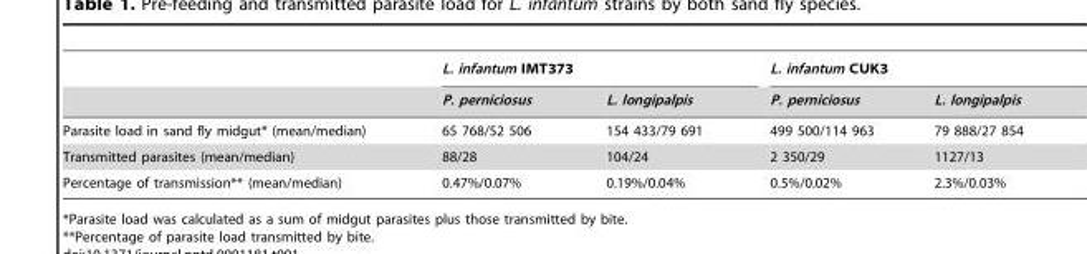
<table><thead><tr><td rowspan="2"></td><td colspan="2">L. infantum IMT373</td><td colspan="2">L. infantum CUK3</td></tr><tr><td>P. perniciosus</td><td>L. longipalpis</td><td>P. perniciosus</td><td>L. longipalpis</td></tr></thead><tbody><tr><td>Parasite load in sand fly midgut* (mean/median)</td><td>65 768/52 506</td><td>154 433/79 691</td><td>499 500/114 963</td><td>79 888/27 854</td></tr><tr><td>Transmitted parasites (mean/median)</td><td>88/28</td><td>104/24</td><td>2 350/29</td><td>1127/13</td></tr><tr><td>Percentage of transmission** (mean/median)</td><td>0.47%/0.07%</td><td>0.19%/0.04%</td><td>0.5%/0.02%</td><td>2.3%/0.03%</td></tr></tbody></table>